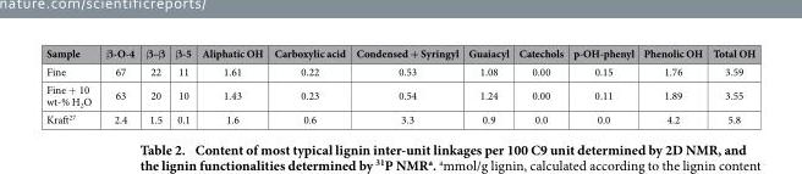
<table><thead><tr><td>Sample</td><td>β-O-4</td><td>β–β</td><td>β-5</td><td>Aliphatic OH</td><td>Carboxylic acid</td><td>Condensed + Syringyl</td><td>Guaiacyl</td><td>Catechols</td><td>p-OH-phenyl</td><td>Phenolic OH</td><td>Total OH</td></tr></thead><tbody><tr><td>Fine</td><td>67</td><td>22</td><td>11</td><td>1.61</td><td>0.22</td><td>0.53</td><td>1.08</td><td>0.00</td><td>0.15</td><td>1.76</td><td>3.59</td></tr><tr><td>Fine + 10 wt-% H<sub>2</sub>O</td><td>63</td><td>20</td><td>10</td><td>1.43</td><td>0.23</td><td>0.54</td><td>1.24</td><td>0.00</td><td>0.11</td><td>1.89</td><td>3.55</td></tr><tr><td>Kraft<sup>27</sup></td><td>2.4</td><td>1.5</td><td>0.1</td><td>1.6</td><td>0.6</td><td>3.3</td><td>0.9</td><td>0.0</td><td>0.0</td><td>4.2</td><td>5.8</td></tr></tbody></table>